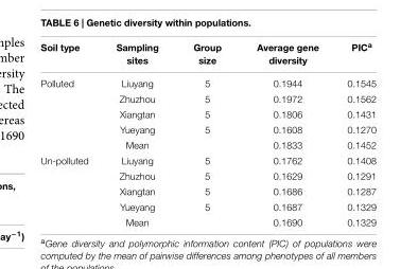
<table><thead><tr><td>Soil type</td><td>Sampling sites</td><td>Group size</td><td>Average gene diversity</td><td>PIC<sup>a</sup></td></tr></thead><tbody><tr><td rowspan="5">Polluted</td><td>Liuyang</td><td>5</td><td>0.1944</td><td>0.1545</td></tr><tr><td>Zhuzhou</td><td>5</td><td>0.1972</td><td>0.1562</td></tr><tr><td>Xiangtan</td><td>5</td><td>0.1806</td><td>0.1431</td></tr><tr><td>Yueyang</td><td>5</td><td>0.1608</td><td>0.1270</td></tr><tr><td>Mean</td><td></td><td>0.1833</td><td>0.1452</td></tr><tr><td rowspan="5">Un-polluted</td><td>Liuyang</td><td>5</td><td>0.1762</td><td>0.1408</td></tr><tr><td>Zhuzhou</td><td>5</td><td>0.1629</td><td>0.1291</td></tr><tr><td>Xiangtan</td><td>5</td><td>0.1686</td><td>0.1287</td></tr><tr><td>Yueyang</td><td>5</td><td>0.1687</td><td>0.1329</td></tr><tr><td>Mean</td><td></td><td>0.1690</td><td>0.1329</td></tr></tbody></table>